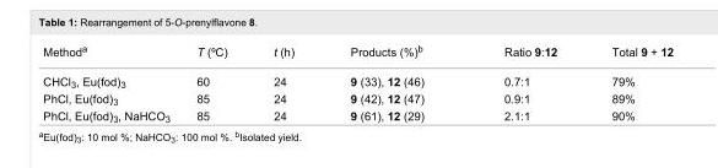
<table><tbody><tr><td>Method<sup>a</sup></td><td>T (ºC)</td><td>t (h)</td><td>Products (%)<sup>b</sup></td><td>Ratio 9:12</td><td>Total 9 + 12</td></tr><tr><td>CHCl<sub>3</sub>, Eu(fod)<sub>3</sub></td><td>60</td><td>24</td><td>9 (33), 12 (46)</td><td>0.7:1</td><td>79%</td></tr><tr><td>PhCl, Eu(fod)<sub>3</sub></td><td>85</td><td>24</td><td>9 (42), 12 (47)</td><td>0.9:1</td><td>89%</td></tr><tr><td>PhCl, Eu(fod)<sub>3</sub>, NaHCO<sub>3</sub></td><td>85</td><td>24</td><td>9 (61), 12 (29)</td><td>2.1:1</td><td>90%</td></tr></tbody></table>